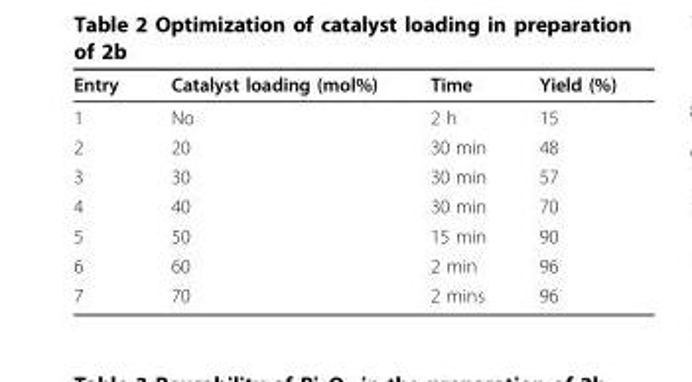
<table><thead><tr><td>Entry</td><td>Catalyst loading (mol%)</td><td>Time</td><td>Yield (%)</td></tr></thead><tbody><tr><td>1</td><td>No</td><td>2 h</td><td>15</td></tr><tr><td>2</td><td>20</td><td>30 min</td><td>48</td></tr><tr><td>3</td><td>30</td><td>30 min</td><td>57</td></tr><tr><td>4</td><td>40</td><td>30 min</td><td>70</td></tr><tr><td>5</td><td>50</td><td>15 min</td><td>90</td></tr><tr><td>6</td><td>60</td><td>2 min</td><td>96</td></tr><tr><td>7</td><td>70</td><td>2 mins</td><td>96</td></tr></tbody></table>